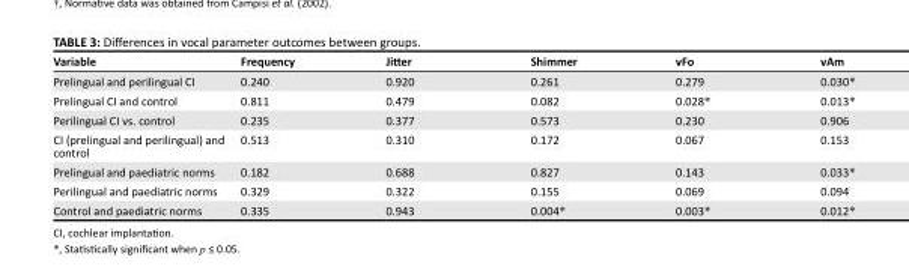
<table><thead><tr><td>Variable</td><td>Frequency</td><td>Jitter</td><td>Shimmer</td><td>vFo</td><td>vAm</td></tr></thead><tbody><tr><td>Prelingual and perilingual CI</td><td>0.240</td><td>0.920</td><td>0.261</td><td>0.279</td><td>0.030*</td></tr><tr><td>Prelingual CI and control</td><td>0.811</td><td>0.479</td><td>0.082</td><td>0.028*</td><td>0.013*</td></tr><tr><td>Perilingual CI vs. control</td><td>0.235</td><td>0.377</td><td>0.573</td><td>0.230</td><td>0.906</td></tr><tr><td>CI (prelingual and perilingual) and control</td><td>0.513</td><td>0.310</td><td>0.172</td><td>0.067</td><td>0.153</td></tr><tr><td>Prelingual and paediatric norms</td><td>0.182</td><td>0.688</td><td>0.827</td><td>0.143</td><td>0.033*</td></tr><tr><td>Perilingual and paediatric norms</td><td>0.329</td><td>0.322</td><td>0.155</td><td>0.069</td><td>0.094</td></tr><tr><td>Control and paediatric norms</td><td>0.335</td><td>0.943</td><td>0.004*</td><td>0.003*</td><td>0.012*</td></tr></tbody></table>